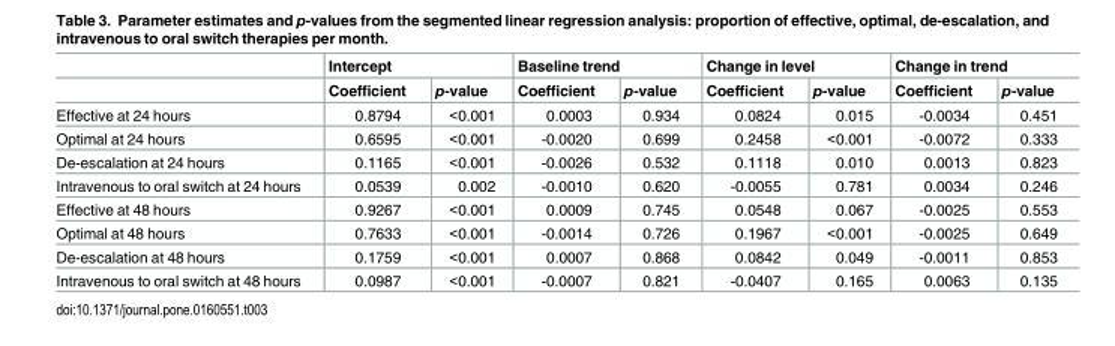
<table><thead><tr><td rowspan="2"></td><td colspan="2">Intercept</td><td colspan="2">Baseline trend</td><td colspan="2">Change in level</td><td colspan="2">Change in trend</td></tr><tr><td>Coefficient</td><td>p-value</td><td>Coefficient</td><td>p-value</td><td>Coefficient</td><td>p-value</td><td>Coefficient</td><td>p-value</td></tr></thead><tbody><tr><td>Effective at 24 hours</td><td>0.8794</td><td>&lt;0.001</td><td>0.0003</td><td>0.934</td><td>0.0824</td><td>0.015</td><td>-0.0034</td><td>0.451</td></tr><tr><td>Optimal at 24 hours</td><td>0.6595</td><td>&lt;0.001</td><td>-0.0020</td><td>0.699</td><td>0.2458</td><td>&lt;0.001</td><td>-0.0072</td><td>0.333</td></tr><tr><td>De-escalation at 24 hours</td><td>0.1165</td><td>&lt;0.001</td><td>-0.0026</td><td>0.532</td><td>0.1118</td><td>0.010</td><td>0.0013</td><td>0.823</td></tr><tr><td>Intravenous to oral switch at 24 hours</td><td>0.0539</td><td>0.002</td><td>-0.0010</td><td>0.620</td><td>-0.0055</td><td>0.781</td><td>0.0034</td><td>0.246</td></tr><tr><td>Effective at 48 hours</td><td>0.9267</td><td>&lt;0.001</td><td>0.0009</td><td>0.745</td><td>0.0548</td><td>0.067</td><td>-0.0025</td><td>0.553</td></tr><tr><td>Optimal at 48 hours</td><td>0.7633</td><td>&lt;0.001</td><td>-0.0014</td><td>0.726</td><td>0.1967</td><td>&lt;0.001</td><td>-0.0025</td><td>0.649</td></tr><tr><td>De-escalation at 48 hours</td><td>0.1759</td><td>&lt;0.001</td><td>0.0007</td><td>0.868</td><td>0.0842</td><td>0.049</td><td>-0.0011</td><td>0.853</td></tr><tr><td>Intravenous to oral switch at 48 hours</td><td>0.0987</td><td>&lt;0.001</td><td>-0.0007</td><td>0.821</td><td>-0.0407</td><td>0.165</td><td>0.0063</td><td>0.135</td></tr></tbody></table>